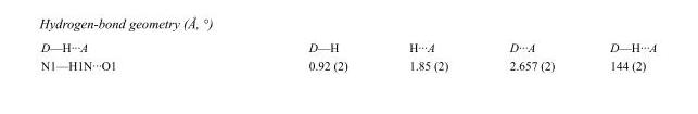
<table><tbody><tr><td>D—H···A</td><td>D—H</td><td>H···A</td><td>D···A</td><td>D—H···A</td></tr><tr><td>N1—H1N···O1</td><td>0.92 (2)</td><td>1.85 (2)</td><td>2.657 (2)</td><td>144 (2)</td></tr></tbody></table>